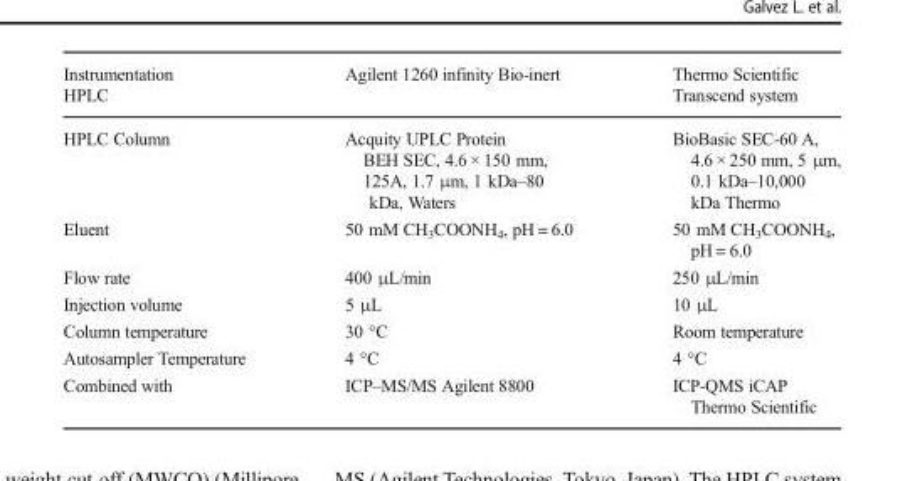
<table><thead><tr><td>Instrumentation HPLC</td><td>Agilent 1260 infinity Bio-inert</td><td>Thermo Scientific Transcend system</td></tr></thead><tbody><tr><td>HPLC Column</td><td>Acquity UPLC Protein BEH SEC, 4.6 × 150 mm, 125A, 1.7 μm, 1 kDa–80 kDa, Waters</td><td>BioBasic SEC-60 A, 4.6 × 250 mm, 5 μm, 0.1 kDa–10,000 kDa Thermo</td></tr><tr><td>Eluent</td><td>50 mM CH<sub>3</sub>COONH<sub>4</sub>, pH = 6.0</td><td>50 mM CH<sub>3</sub>COONH<sub>4</sub>, pH = 6.0</td></tr><tr><td>Flow rate</td><td>400 μL/min</td><td>250 μL/min</td></tr><tr><td>Injection volume</td><td>5 μL</td><td>10 μL</td></tr><tr><td>Column temperature</td><td>30 °C</td><td>Room temperature</td></tr><tr><td>Autosampler Temperature</td><td>4 °C</td><td>4 °C</td></tr><tr><td>Combined with</td><td>ICP–MS/MS Agilent 8800</td><td>ICP-QMS iCAP Thermo Scientific</td></tr></tbody></table>